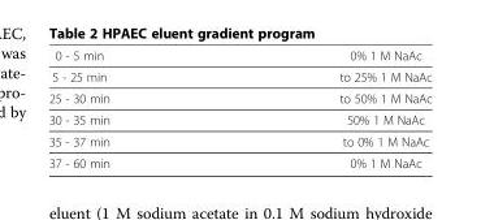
<table><tbody><tr><td>0 - 5 min</td><td>0% 1 M NaAc</td></tr><tr><td>5 - 25 min</td><td>to 25% 1 M NaAc</td></tr><tr><td>25 - 30 min</td><td>to 50% 1 M NaAc</td></tr><tr><td>30 - 35 min</td><td>50% 1 M NaAc</td></tr><tr><td>35 - 37 min</td><td>to 0% 1 M NaAc</td></tr><tr><td>37 - 60 min</td><td>0% 1 M NaAc</td></tr></tbody></table>